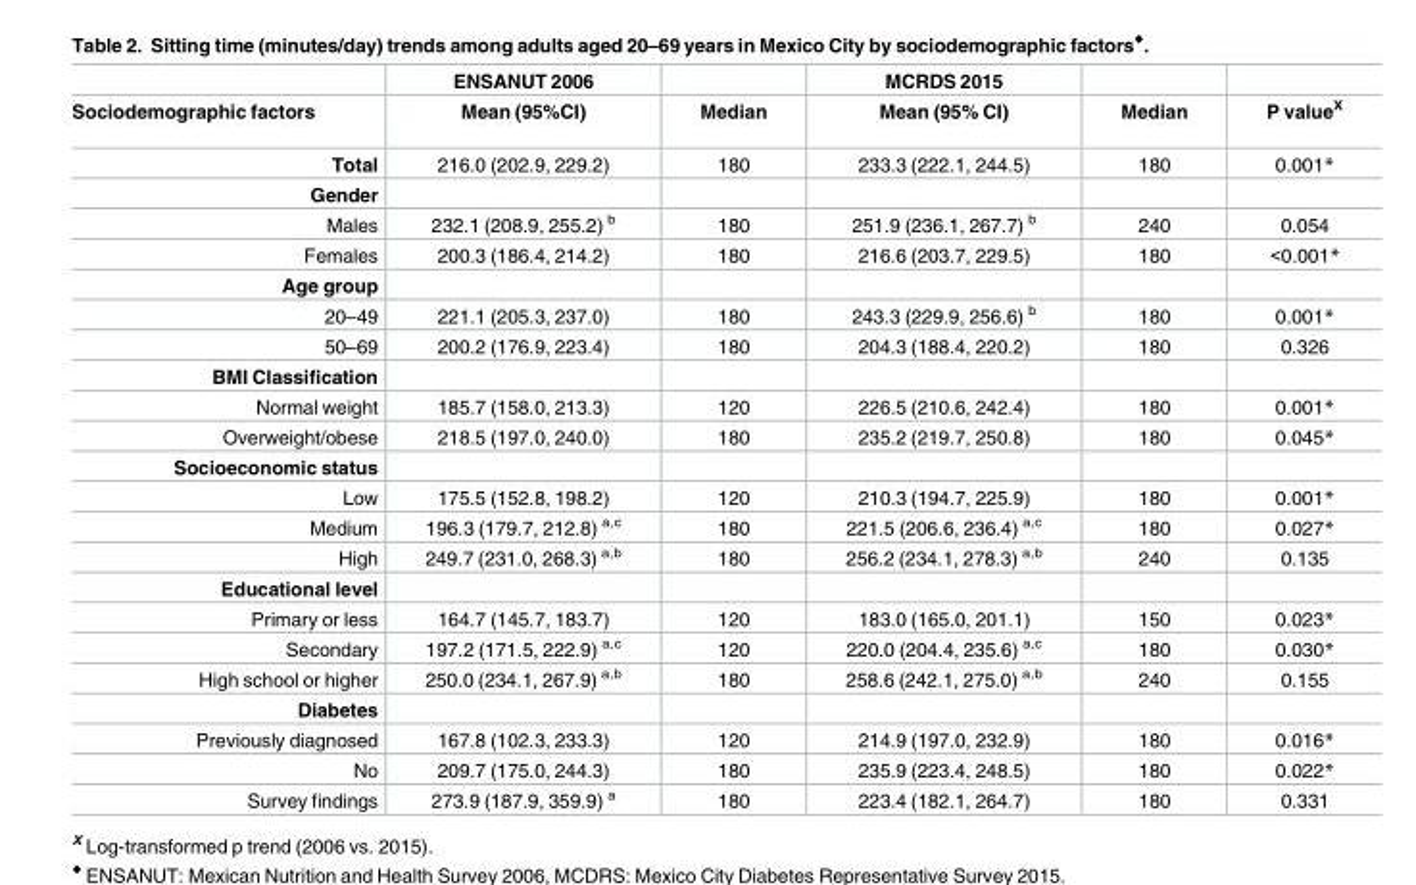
<table><thead><tr><td rowspan="2">Sociodemographic factors</td><td rowspan="2">ENSANUT 2006 Mean (95%CI)</td><td rowspan="2">Median</td><td rowspan="2">MCRDS 2015 Mean (95% CI)</td><td rowspan="2">Median</td><td rowspan="2">P value<sup>X</sup></td></tr><tr></tr></thead><tbody><tr><td>Total</td><td>216.0 (202.9, 229.2)</td><td>180</td><td>233.3 (222.1, 244.5)</td><td>180</td><td>0.001*</td></tr><tr><td colspan="6">Gender</td></tr><tr><td>Males</td><td>232.1 (208.9, 255.2) <sup>b</sup></td><td>180</td><td>251.9 (236.1, 267.7) <sup>b</sup></td><td>240</td><td>0.054</td></tr><tr><td>Females</td><td>200.3 (186.4, 214.2)</td><td>180</td><td>216.6 (203.7, 229.5)</td><td>180</td><td>&lt;0.001*</td></tr><tr><td colspan="6">Age group</td></tr><tr><td>20–49</td><td>221.1 (205.3, 237.0)</td><td>180</td><td>243.3 (229.9, 256.6) <sup>b</sup></td><td>180</td><td>0.001*</td></tr><tr><td>50–69</td><td>200.2 (176.9, 223.4)</td><td>180</td><td>204.3 (188.4, 220.2)</td><td>180</td><td>0.326</td></tr><tr><td colspan="6">BMI Classification</td></tr><tr><td>Normal weight</td><td>185.7 (158.0, 213.3)</td><td>120</td><td>226.5 (210.6, 242.4)</td><td>180</td><td>0.001*</td></tr><tr><td>Overweight/obese</td><td>218.5 (197.0, 240.0)</td><td>180</td><td>235.2 (219.7, 250.8)</td><td>180</td><td>0.045*</td></tr><tr><td colspan="6">Socioeconomic status</td></tr><tr><td>Low</td><td>175.5 (152.8, 198.2)</td><td>120</td><td>210.3 (194.7, 225.9)</td><td>180</td><td>0.001*</td></tr><tr><td>Medium</td><td>196.3 (179.7, 212.8) <sup>a,c</sup></td><td>180</td><td>221.5 (206.6, 236.4) <sup>a,c</sup></td><td>180</td><td>0.027*</td></tr><tr><td>High</td><td>249.7 (231.0, 268.3) <sup>a,b</sup></td><td>180</td><td>256.2 (234.1, 278.3) <sup>a,b</sup></td><td>240</td><td>0.135</td></tr><tr><td colspan="6">Educational level</td></tr><tr><td>Primary or less</td><td>164.7 (145.7, 183.7)</td><td>120</td><td>183.0 (165.0, 201.1)</td><td>150</td><td>0.023*</td></tr><tr><td>Secondary</td><td>197.2 (171.5, 222.9) <sup>a,c</sup></td><td>120</td><td>220.0 (204.4, 235.6) <sup>a,c</sup></td><td>180</td><td>0.030*</td></tr><tr><td>High school or higher</td><td>250.0 (234.1, 267.9) <sup>a,b</sup></td><td>180</td><td>258.6 (242.1, 275.0) <sup>a,b</sup></td><td>240</td><td>0.155</td></tr><tr><td colspan="6">Diabetes</td></tr><tr><td>Previously diagnosed</td><td>167.8 (102.3, 233.3)</td><td>120</td><td>214.9 (197.0, 232.9)</td><td>180</td><td>0.016*</td></tr><tr><td>No</td><td>209.7 (175.0, 244.3)</td><td>180</td><td>235.9 (223.4, 248.5)</td><td>180</td><td>0.022*</td></tr><tr><td>Survey findings</td><td>273.9 (187.9, 359.9) <sup>a</sup></td><td>180</td><td>223.4 (182.1, 264.7)</td><td>180</td><td>0.331</td></tr></tbody></table>